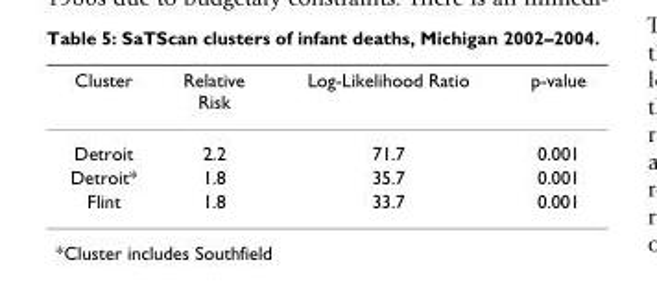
<table><thead><tr><td>Cluster</td><td>Relative Risk</td><td>Log-Likelihood Ratio</td><td>p-value</td></tr></thead><tbody><tr><td>Detroit</td><td>2.2</td><td>71.7</td><td>0.001</td></tr><tr><td>Detroit*</td><td>1.8</td><td>35.7</td><td>0.001</td></tr><tr><td>Flint</td><td>1.8</td><td>33.7</td><td>0.001</td></tr></tbody></table>